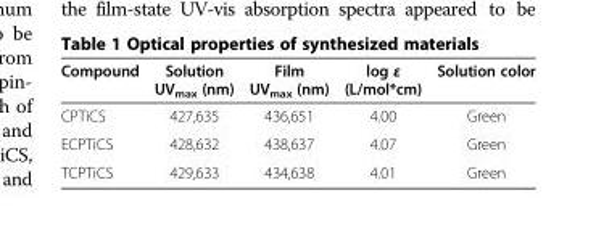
<table><thead><tr><td>Compound</td><td>Solution UV<sub>max</sub> (nm)</td><td>Film UV<sub>max</sub> (nm)</td><td>log ε (L/mol*cm)</td><td>Solution color</td></tr></thead><tbody><tr><td>CPTiCS</td><td>427,635</td><td>436,651</td><td>4.00</td><td>Green</td></tr><tr><td>ECPTiCS</td><td>428,632</td><td>438,637</td><td>4.07</td><td>Green</td></tr><tr><td>TCPTiCS</td><td>429,633</td><td>434,638</td><td>4.01</td><td>Green</td></tr></tbody></table>